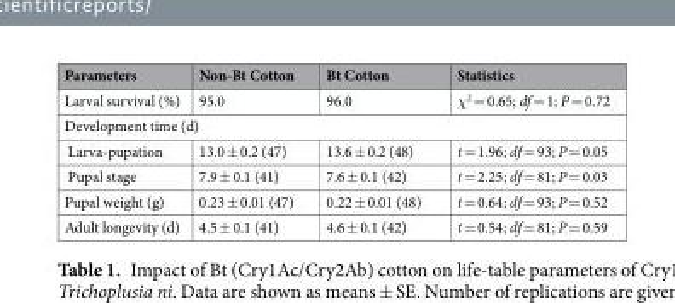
<table><thead><tr><td>Parameters</td><td>Non-Bt Cotton</td><td>Bt Cotton</td><td>Statistics</td></tr></thead><tbody><tr><td>Larval survival (%)</td><td>95.0</td><td>96.0</td><td>χ<sup>2</sup> = 0.65; df = 1; P = 0.72</td></tr><tr><td colspan="4">Development time (d)</td></tr><tr><td>Larva-pupation</td><td>13.0 ± 0.2 (47)</td><td>13.6 ± 0.2 (48)</td><td>t = 1.96; df = 93; P = 0.05</td></tr><tr><td>Pupal stage</td><td>7.9 ± 0.1 (41)</td><td>7.6 ± 0.1 (42)</td><td>t = 2.25; df = 81; P = 0.03</td></tr><tr><td>Pupal weight (g)</td><td>0.23 ± 0.01 (47)</td><td>0.22 ± 0.01 (48)</td><td>t = 0.64; df = 93; P = 0.52</td></tr><tr><td>Adult longevity (d)</td><td>4.5 ± 0.1 (41)</td><td>4.6 ± 0.1 (42)</td><td>t = 0.54; df = 81; P = 0.59</td></tr></tbody></table>